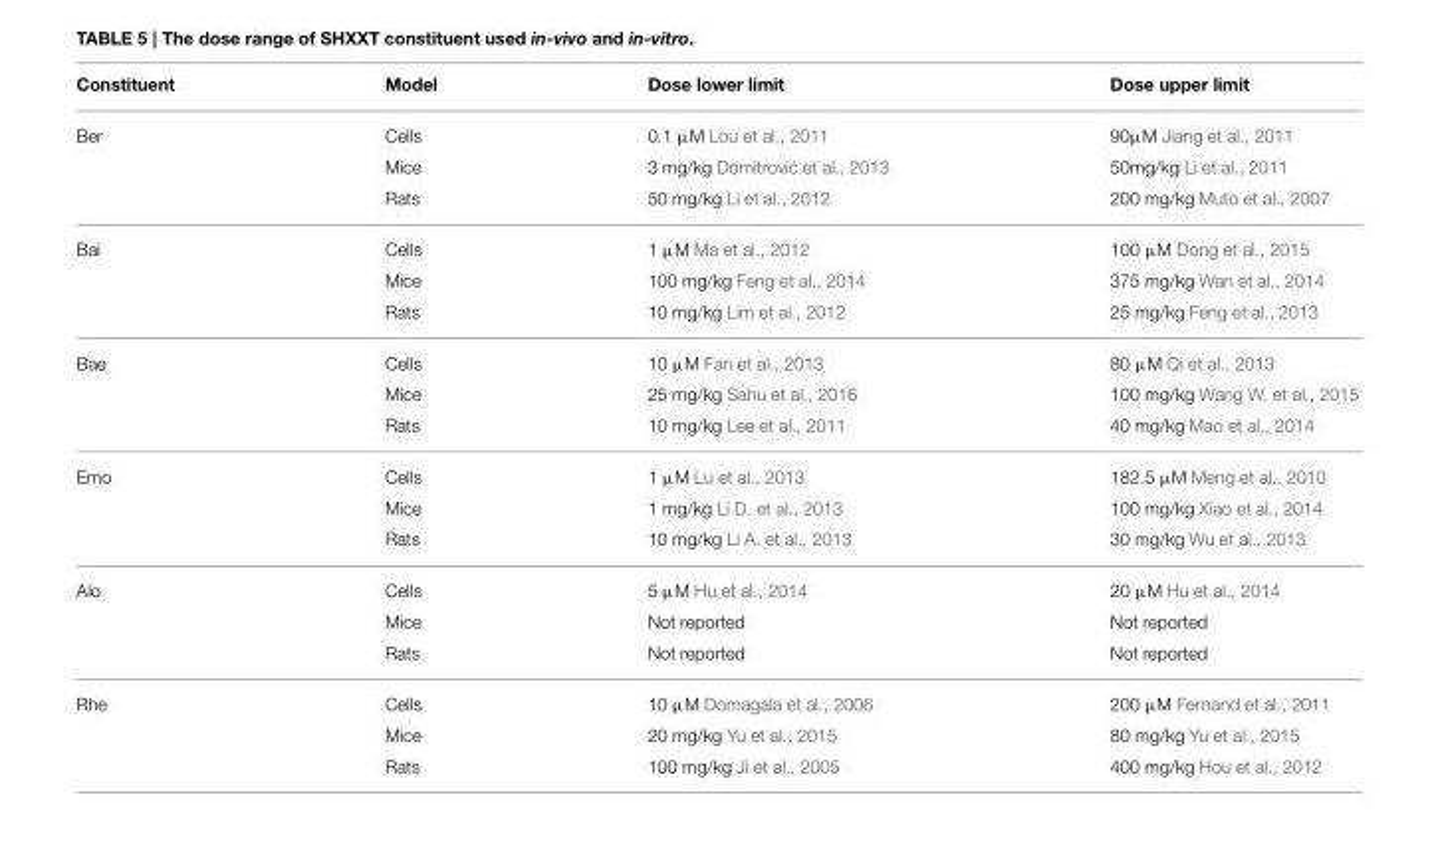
<table><thead><tr><td>Constituent</td><td>Model</td><td>Dose lower limit</td><td>Dose upper limit</td></tr></thead><tbody><tr><td rowspan="3">Ber</td><td>Cells</td><td>0.1 µM Lou et al., 2011</td><td>90µM Jiang et al., 2011</td></tr><tr><td>Mice</td><td>3 mg/kg Domitrovi ´c et al., 2013</td><td>50mg/kg Li et al., 2011</td></tr><tr><td>Rats</td><td>50 mg/kg Li et al., 2012</td><td>200 mg/kg Muto et al., 2007</td></tr><tr><td rowspan="3">Bai</td><td>Cells</td><td>1 µM Ma et al., 2012</td><td>100 µM Dong et al., 2015</td></tr><tr><td>Mice</td><td>100 mg/kg Feng et al., 2014</td><td>375 mg/kg Wan et al., 2014</td></tr><tr><td>Rats</td><td>10 mg/kg Lim et al., 2012</td><td>25 mg/kg Feng et al., 2013</td></tr><tr><td rowspan="3">Bae</td><td>Cells</td><td>10 µM Fan et al., 2013</td><td>80 µM Qi et al., 2013</td></tr><tr><td>Mice</td><td>25 mg/kg Sahu et al., 2016</td><td>100 mg/kg Wang W. et al., 2015</td></tr><tr><td>Rats</td><td>10 mg/kg Lee et al., 2011</td><td>40 mg/kg Mao et al., 2014</td></tr><tr><td rowspan="3">Emo</td><td>Cells</td><td>1 µM Lu et al., 2013</td><td>182.5 µM Meng et al., 2010</td></tr><tr><td>Mice</td><td>1 mg/kg Li D. et al., 2013</td><td>100 mg/kg Xiao et al., 2014</td></tr><tr><td>Rats</td><td>10 mg/kg Li A. et al., 2013</td><td>30 mg/kg Wu et al., 2013</td></tr><tr><td rowspan="3">Alo</td><td>Cells</td><td>5 µM Hu et al., 2014</td><td>20 µM Hu et al., 2014</td></tr><tr><td>Mice</td><td>Not reported</td><td>Not reported</td></tr><tr><td>Rats</td><td>Not reported</td><td>Not reported</td></tr><tr><td rowspan="3">Rhe</td><td>Cells</td><td>10 µM Domagala et al., 2006</td><td>200 µM Fernand et al., 2011</td></tr><tr><td>Mice</td><td>20 mg/kg Yu et al., 2015</td><td>80 mg/kg Yu et al., 2015</td></tr><tr><td>Rats</td><td>100 mg/kg Ji et al., 2005</td><td>400 mg/kg Hou et al., 2012</td></tr></tbody></table>